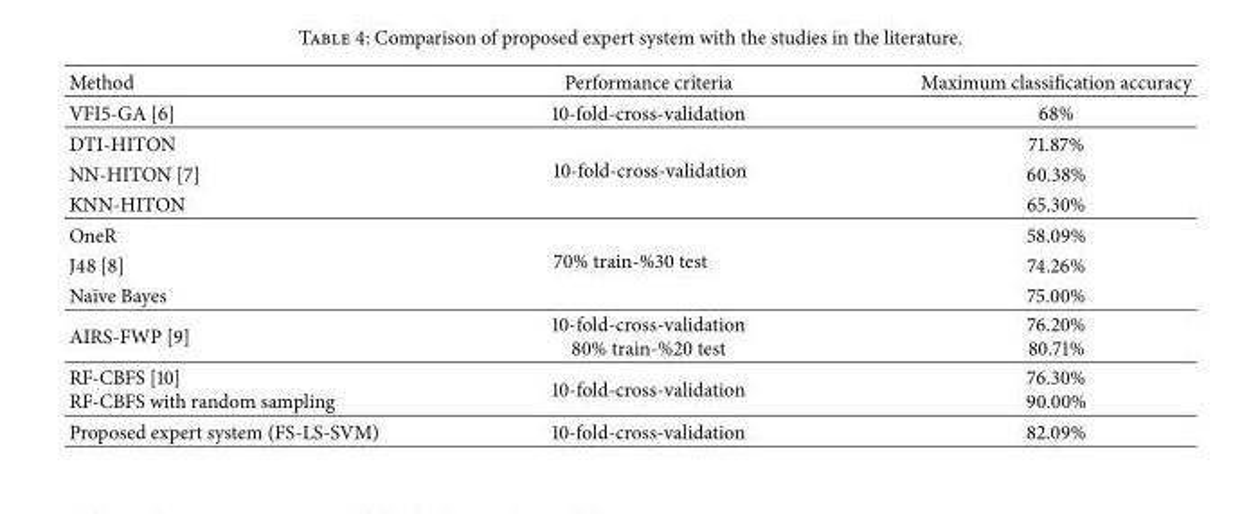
<table><thead><tr><td>Method</td><td>Performance criteria</td><td>Maximum classification accuracy</td></tr></thead><tbody><tr><td>VFI5-GA [6]</td><td>10-fold-cross-validation</td><td>68%</td></tr><tr><td>DTI-HITON</td><td rowspan="3">10-fold-cross-validation</td><td>71.87%</td></tr><tr><td>NN-HITON [7]</td><td>60.38%</td></tr><tr><td>KNN-HITON</td><td>65.30%</td></tr><tr><td>OneR</td><td rowspan="3">70% train-%30 test</td><td>58.09%</td></tr><tr><td>J48 [8]</td><td>74.26%</td></tr><tr><td>Na¨ıve Bayes</td><td>75.00%</td></tr><tr><td>AIRS-FWP [9]</td><td>10-fold-cross-validation 80% train-%20 test</td><td>76.20% 80.71%</td></tr><tr><td>RF-CBFS [10] RF-CBFS with random sampling</td><td>10-fold-cross-validation</td><td>76.30% 90.00%</td></tr><tr><td>Proposed expert system (FS-LS-SVM)</td><td>10-fold-cross-validation</td><td>82.09%</td></tr></tbody></table>